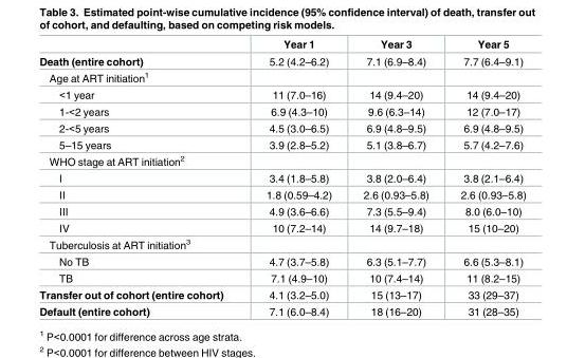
<table><thead><tr><td></td><td>Year 1</td><td>Year 3</td><td>Year 5</td></tr></thead><tbody><tr><td>Death (entire cohort)</td><td>5.2 (4.2–6.2)</td><td>7.1 (6.9–8.4)</td><td>7.7 (6.4–9.1)</td></tr><tr><td colspan="4">Age at ART initiation<sup>1</sup></td></tr><tr><td>&lt;1 year</td><td>11 (7.0–16)</td><td>14 (9.4–20)</td><td>14 (9.4–20)</td></tr><tr><td>1-&lt;2 years</td><td>6.9 (4.3–10)</td><td>9.6 (6.3–14)</td><td>12 (7.0–17)</td></tr><tr><td>2-&lt;5 years</td><td>4.5 (3.0–6.5)</td><td>6.9 (4.8–9.5)</td><td>6.9 (4.8–9.5)</td></tr><tr><td>5–15 years</td><td>3.9 (2.8–5.2)</td><td>5.1 (3.8–6.7)</td><td>5.7 (4.2–7.6)</td></tr><tr><td colspan="4">WHO stage at ART initiation<sup>2</sup></td></tr><tr><td>I</td><td>3.4 (1.8–5.8)</td><td>3.8 (2.0–6.4)</td><td>3.8 (2.1–6.4)</td></tr><tr><td>II</td><td>1.8 (0.59–4.2)</td><td>2.6 (0.93–5.8)</td><td>2.6 (0.93–5.8)</td></tr><tr><td>III</td><td>4.9 (3.6–6.6)</td><td>7.3 (5.5–9.4)</td><td>8.0 (6.0–10)</td></tr><tr><td>IV</td><td>10 (7.2–14)</td><td>14 (9.7–18)</td><td>15 (10–20)</td></tr><tr><td colspan="4">Tuberculosis at ART initiation<sup>3</sup></td></tr><tr><td>No TB</td><td>4.7 (3.7–5.8)</td><td>6.3 (5.1–7.7)</td><td>6.6 (5.3–8.1)</td></tr><tr><td>TB</td><td>7.1 (4.9–10)</td><td>10 (7.4–14)</td><td>11 (8.2–15)</td></tr><tr><td>Transfer out of cohort (entire cohort)</td><td>4.1 (3.2–5.0)</td><td>15 (13–17)</td><td>33 (29–37)</td></tr><tr><td>Default (entire cohort)</td><td>7.1 (6.0–8.4)</td><td>18 (16–20)</td><td>31 (28–35)</td></tr></tbody></table>